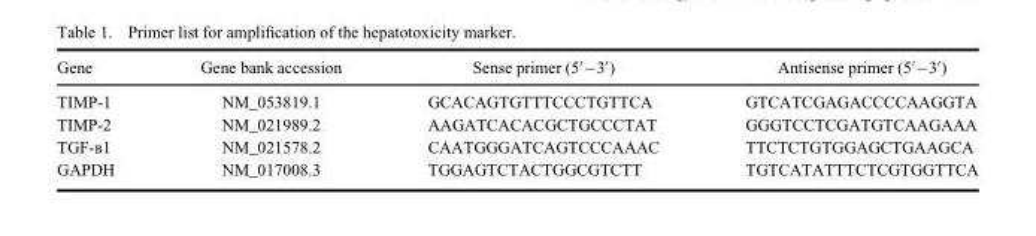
<table><thead><tr><td>Gene</td><td>Gene bank accession</td><td>Sense primer (5′–3′)</td><td>Antisense primer (5′–3′)</td></tr></thead><tbody><tr><td>TIMP-1</td><td>NM_053819.1</td><td>GCACAGTGTTTCCCTGTTCA</td><td>GTCATCGAGACCCCAAGGTA</td></tr><tr><td>TIMP-2</td><td>NM_021989.2</td><td>AAGATCACACGCTGCCCTAT</td><td>GGGTCCTCGATGTCAAGAAA</td></tr><tr><td>TGF-&amp;1</td><td>NM_021578.2</td><td>CAATGGGATCAGTCCCAAAC</td><td>TTCTCTGTGGAGCTGAAGCA</td></tr><tr><td>GAPDH</td><td>NM_017008.3</td><td>TGGAGTCTACTGGCGTCTT</td><td>TGTCATATTTCTCGTGGTTCA</td></tr></tbody></table>